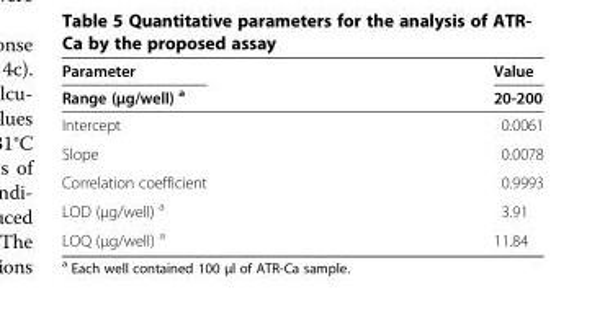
<table><thead><tr><td rowspan="2">Parameter Range (μg/well) <sup>a</sup></td><td rowspan="2">Value 20-200</td></tr><tr></tr></thead><tbody><tr><td>Intercept</td><td>0.0061</td></tr><tr><td>Slope</td><td>0.0078</td></tr><tr><td>Correlation coefficient</td><td>0.9993</td></tr><tr><td>LOD (μg/well) <sup>a</sup></td><td>3.91</td></tr><tr><td>LOQ (μg/well) <sup>a</sup></td><td>11.84</td></tr></tbody></table>